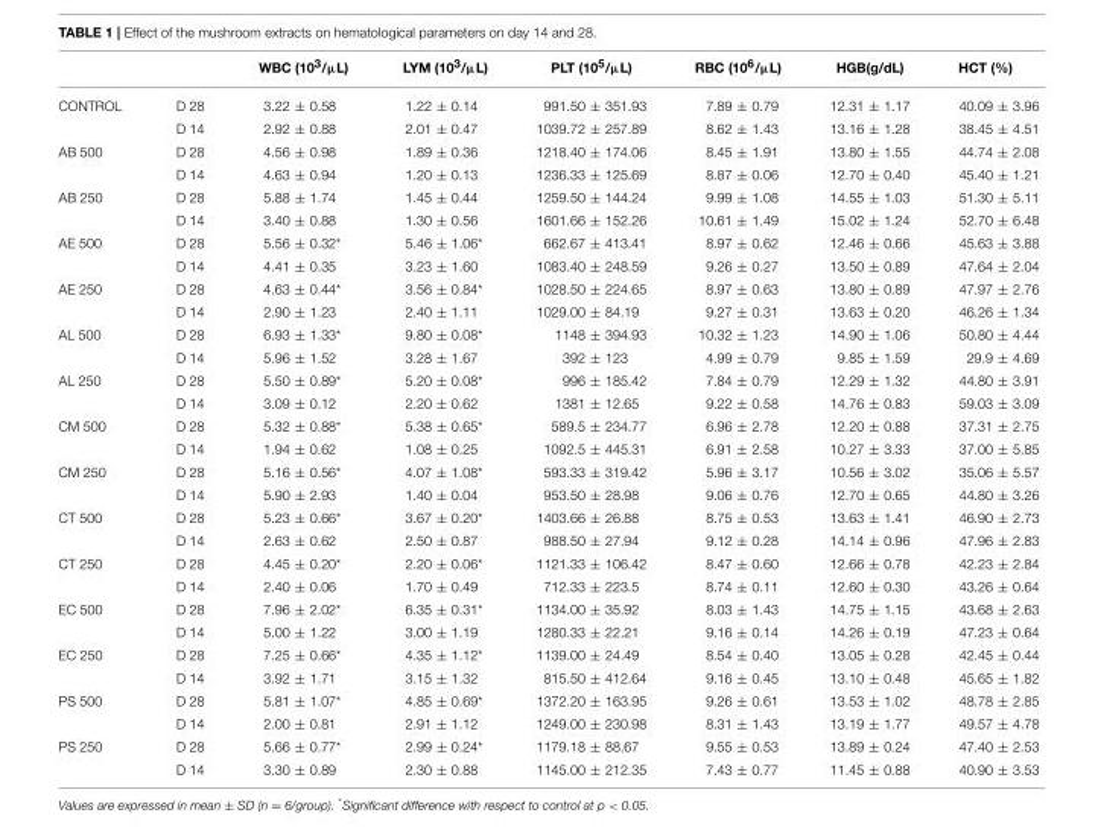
<table><thead><tr><td></td><td></td><td>WBC (10<sup>3</sup>/µL)</td><td>LYM (10<sup>3</sup>/µL)</td><td>PLT (10<sup>5</sup>/µL)</td><td>RBC (10<sup>6</sup>/µL)</td><td>HGB(g/dL)</td><td>HCT (%)</td></tr></thead><tbody><tr><td rowspan="2">CONTROL</td><td>D 28</td><td>3.22 ± 0.58</td><td>1.22 ± 0.14</td><td>991.50 ± 351.93</td><td>7.89 ± 0.79</td><td>12.31 ± 1.17</td><td>40.09 ± 3.96</td></tr><tr><td>D 14</td><td>2.92 ± 0.88</td><td>2.01 ± 0.47</td><td>1039.72 ± 257.89</td><td>8.62 ± 1.43</td><td>13.16 ± 1.28</td><td>38.45 ± 4.51</td></tr><tr><td rowspan="2">AB 500</td><td>D 28</td><td>4.56 ± 0.98</td><td>1.89 ± 0.36</td><td>1218.40 ± 174.06</td><td>8.45 ± 1.91</td><td>13.80 ± 1.55</td><td>44.74 ± 2.08</td></tr><tr><td>D 14</td><td>4.63 ± 0.94</td><td>1.20 ± 0.13</td><td>1236.33 ± 125.69</td><td>8.87 ± 0.06</td><td>12.70 ± 0.40</td><td>45.40 ± 1.21</td></tr><tr><td rowspan="2">AB 250</td><td>D 28</td><td>5.88 ± 1.74</td><td>1.45 ± 0.44</td><td>1259.50 ± 144.24</td><td>9.99 ± 1.08</td><td>14.55 ± 1.03</td><td>51.30 ± 5.11</td></tr><tr><td>D 14</td><td>3.40 ± 0.88</td><td>1.30 ± 0.56</td><td>1601.66 ± 152.26</td><td>10.61 ± 1.49</td><td>15.02 ± 1.24</td><td>52.70 ± 6.48</td></tr><tr><td rowspan="2">AE 500</td><td>D 28</td><td>5.56 ± 0.32*</td><td>5.46 ± 1.06*</td><td>662.67 ± 413.41</td><td>8.97 ± 0.62</td><td>12.46 ± 0.66</td><td>45.63 ± 3.88</td></tr><tr><td>D 14</td><td>4.41 ± 0.35</td><td>3.23 ± 1.60</td><td>1083.40 ± 248.59</td><td>9.26 ± 0.27</td><td>13.50 ± 0.89</td><td>47.64 ± 2.04</td></tr><tr><td rowspan="2">AE 250</td><td>D 28</td><td>4.63 ± 0.44*</td><td>3.56 ± 0.84*</td><td>1028.50 ± 224.65</td><td>8.97 ± 0.63</td><td>13.80 ± 0.89</td><td>47.97 ± 2.76</td></tr><tr><td>D 14</td><td>2.90 ± 1.23</td><td>2.40 ± 1.11</td><td>1029.00 ± 84.19</td><td>9.27 ± 0.31</td><td>13.63 ± 0.20</td><td>46.26 ± 1.34</td></tr><tr><td rowspan="2">AL 500</td><td>D 28</td><td>6.93 ± 1.33*</td><td>9.80 ± 0.08*</td><td>1148 ± 394.93</td><td>10.32 ± 1.23</td><td>14.90 ± 1.06</td><td>50.80 ± 4.44</td></tr><tr><td>D 14</td><td>5.96 ± 1.52</td><td>3.28 ± 1.67</td><td>392 ± 123</td><td>4.99 ± 0.79</td><td>9.85 ± 1.59</td><td>29.9 ± 4.69</td></tr><tr><td rowspan="2">AL 250</td><td>D 28</td><td>5.50 ± 0.89*</td><td>5.20 ± 0.08*</td><td>996 ± 185.42</td><td>7.84 ± 0.79</td><td>12.29 ± 1.32</td><td>44.80 ± 3.91</td></tr><tr><td>D 14</td><td>3.09 ± 0.12</td><td>2.20 ± 0.62</td><td>1381 ± 12.65</td><td>9.22 ± 0.58</td><td>14.76 ± 0.83</td><td>59.03 ± 3.09</td></tr><tr><td rowspan="2">CM 500</td><td>D 28</td><td>5.32 ± 0.88*</td><td>5.38 ± 0.65*</td><td>589.5 ± 234.77</td><td>6.96 ± 2.78</td><td>12.20 ± 0.88</td><td>37.31 ± 2.75</td></tr><tr><td>D 14</td><td>1.94 ± 0.62</td><td>1.08 ± 0.25</td><td>1092.5 ± 445.31</td><td>6.91 ± 2.58</td><td>10.27 ± 3.33</td><td>37.00 ± 5.85</td></tr><tr><td rowspan="2">CM 250</td><td>D 28</td><td>5.16 ± 0.56*</td><td>4.07 ± 1.08*</td><td>593.33 ± 319.42</td><td>5.96 ± 3.17</td><td>10.56 ± 3.02</td><td>35.06 ± 5.57</td></tr><tr><td>D 14</td><td>5.90 ± 2.93</td><td>1.40 ± 0.04</td><td>953.50 ± 28.98</td><td>9.06 ± 0.76</td><td>12.70 ± 0.65</td><td>44.80 ± 3.26</td></tr><tr><td rowspan="2">CT 500</td><td>D 28</td><td>5.23 ± 0.66*</td><td>3.67 ± 0.20*</td><td>1403.66 ± 26.88</td><td>8.75 ± 0.53</td><td>13.63 ± 1.41</td><td>46.90 ± 2.73</td></tr><tr><td>D 14</td><td>2.63 ± 0.62</td><td>2.50 ± 0.87</td><td>988.50 ± 27.94</td><td>9.12 ± 0.28</td><td>14.14 ± 0.96</td><td>47.96 ± 2.83</td></tr><tr><td rowspan="2">CT 250</td><td>D 28</td><td>4.45 ± 0.20*</td><td>2.20 ± 0.06*</td><td>1121.33 ± 106.42</td><td>8.47 ± 0.60</td><td>12.66 ± 0.78</td><td>42.23 ± 2.84</td></tr><tr><td>D 14</td><td>2.40 ± 0.06</td><td>1.70 ± 0.49</td><td>712.33 ± 223.5</td><td>8.74 ± 0.11</td><td>12.60 ± 0.30</td><td>43.26 ± 0.64</td></tr><tr><td rowspan="2">EC 500</td><td>D 28</td><td>7.96 ± 2.02*</td><td>6.35 ± 0.31*</td><td>1134.00 ± 35.92</td><td>8.03 ± 1.43</td><td>14.75 ± 1.15</td><td>43.68 ± 2.63</td></tr><tr><td>D 14</td><td>5.00 ± 1.22</td><td>3.00 ± 1.19</td><td>1280.33 ± 22.21</td><td>9.16 ± 0.14</td><td>14.26 ± 0.19</td><td>47.23 ± 0.64</td></tr><tr><td rowspan="2">EC 250</td><td>D 28</td><td>7.25 ± 0.66*</td><td>4.35 ± 1.12*</td><td>1139.00 ± 24.49</td><td>8.54 ± 0.40</td><td>13.05 ± 0.28</td><td>42.45 ± 0.44</td></tr><tr><td>D 14</td><td>3.92 ± 1.71</td><td>3.15 ± 1.32</td><td>815.50 ± 412.64</td><td>9.16 ± 0.45</td><td>13.10 ± 0.48</td><td>45.65 ± 1.82</td></tr><tr><td rowspan="2">PS 500</td><td>D 28</td><td>5.81 ± 1.07*</td><td>4.85 ± 0.69*</td><td>1372.20 ± 163.95</td><td>9.26 ± 0.61</td><td>13.53 ± 1.02</td><td>48.78 ± 2.85</td></tr><tr><td>D 14</td><td>2.00 ± 0.81</td><td>2.91 ± 1.12</td><td>1249.00 ± 230.98</td><td>8.31 ± 1.43</td><td>13.19 ± 1.77</td><td>49.57 ± 4.78</td></tr><tr><td rowspan="2">PS 250</td><td>D 28</td><td>5.66 ± 0.77*</td><td>2.99 ± 0.24*</td><td>1179.18 ± 88.67</td><td>9.55 ± 0.53</td><td>13.89 ± 0.24</td><td>47.40 ± 2.53</td></tr><tr><td>D 14</td><td>3.30 ± 0.89</td><td>2.30 ± 0.88</td><td>1145.00 ± 212.35</td><td>7.43 ± 0.77</td><td>11.45 ± 0.88</td><td>40.90 ± 3.53</td></tr></tbody></table>